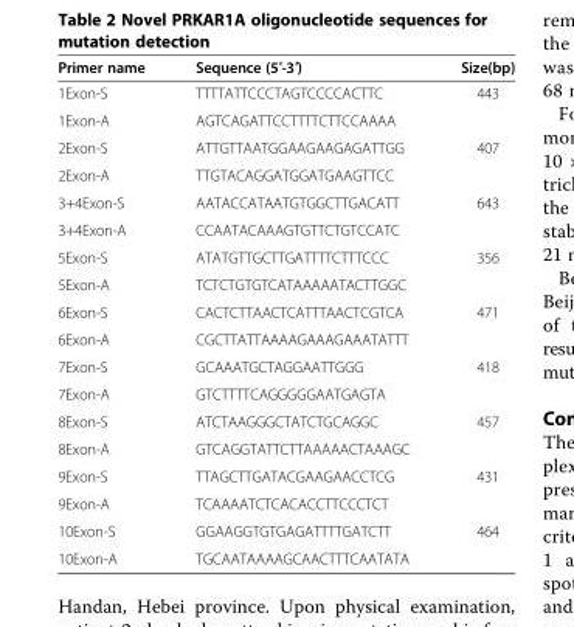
<table><thead><tr><td>Primer name</td><td>Sequence (5′-3′)</td><td>Size(bp)</td></tr></thead><tbody><tr><td>1Exon-S</td><td>TTTTATTCCCTAGTCCCCACTTC</td><td rowspan="2">443</td></tr><tr><td>1Exon-A</td><td>AGTCAGATTCCTTTTCTTCCAAAA</td></tr><tr><td>2Exon-S</td><td>ATTGTTAATGGAAGAAGAGATTGG</td><td rowspan="2">407</td></tr><tr><td>2Exon-A</td><td>TTGTACAGGATGGATGAAGTTCC</td></tr><tr><td>3+4Exon-S</td><td>AATACCATAATGTGGCTTGACATT</td><td rowspan="2">643</td></tr><tr><td>3+4Exon-A</td><td>CCAATACAAAGTGTTCTGTCCATC</td></tr><tr><td>5Exon-S</td><td>ATATGTTGCTTGATTTTCTTTCCC</td><td rowspan="2">356</td></tr><tr><td>5Exon-A</td><td>TCTCTGTGTCATAAAAATACTTGGC</td></tr><tr><td>6Exon-S</td><td>CACTCTTAACTCATTTAACTCGTCA</td><td rowspan="2">471</td></tr><tr><td>6Exon-A</td><td>CGCTTATTAAAAGAAAGAAATATTT</td></tr><tr><td>7Exon-S</td><td>GCAAATGCTAGGAATTGGG</td><td rowspan="2">418</td></tr><tr><td>7Exon-A</td><td>GTCTTTTCAGGGGGAATGAGTA</td></tr><tr><td>8Exon-S</td><td>ATCTAAGGGCTATCTGCAGGC</td><td rowspan="2">457</td></tr><tr><td>8Exon-A</td><td>GTCAGGTATTCTTAAAAACTAAAGC</td></tr><tr><td>9Exon-S</td><td>TTAGCTTGATACGAAGAACCTCG</td><td rowspan="2">431</td></tr><tr><td>9Exon-A</td><td>TCAAAATCTCACACCTTCCCTCT</td></tr><tr><td>10Exon-S</td><td>GGAAGGTGTGAGATTTTGATCTT</td><td rowspan="2">464</td></tr><tr><td>10Exon-A</td><td>TGCAATAAAAGCAACTTTCAATATA</td></tr></tbody></table>